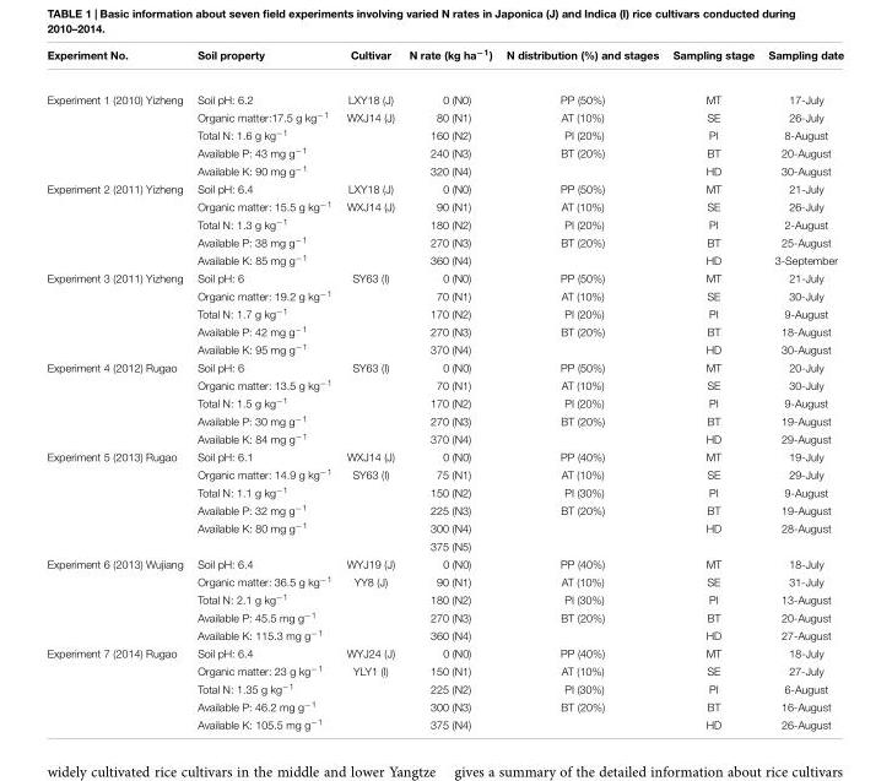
<table><thead><tr><td>Experiment No.</td><td>Soil property</td><td>Cultivar</td><td>N rate (kg ha<sup>−1</sup>)</td><td>N distribution (%) and stages</td><td>Sampling stage</td><td>Sampling date</td></tr></thead><tbody><tr><td rowspan="5">Experiment 1 (2010) Yizheng</td><td>Soil pH: 6.2</td><td>LXY18 (J)</td><td>0 (N0)</td><td>PP (50%)</td><td>MT</td><td>17-July</td></tr><tr><td>Organic matter:17.5 g kg<sup>−1</sup></td><td>WXJ14 (J)</td><td>80 (N1)</td><td>AT (10%)</td><td>SE</td><td>26-July</td></tr><tr><td>Total N: 1.6 g kg<sup>−1</sup></td><td></td><td>160 (N2)</td><td>PI (20%)</td><td>PI</td><td>8-August</td></tr><tr><td>Available P: 43 mg g<sup>−1</sup></td><td></td><td>240 (N3)</td><td>BT (20%)</td><td>BT</td><td>20-August</td></tr><tr><td>Available K: 90 mg g<sup>−1</sup></td><td></td><td>320 (N4)</td><td></td><td>HD</td><td>30-August</td></tr><tr><td rowspan="5">Experiment 2 (2011) Yizheng</td><td>Soil pH: 6.4</td><td>LXY18 (J)</td><td>0 (N0)</td><td>PP (50%)</td><td>MT</td><td>21-July</td></tr><tr><td>Organic matter: 15.5 g kg<sup>−1</sup></td><td>WXJ14 (J)</td><td>90 (N1)</td><td>AT (10%)</td><td>SE</td><td>26-July</td></tr><tr><td>Total N: 1.3 g kg<sup>−1</sup></td><td></td><td>180 (N2)</td><td>PI (20%)</td><td>PI</td><td>2-August</td></tr><tr><td>Available P: 38 mg g<sup>−1</sup></td><td></td><td>270 (N3)</td><td>BT (20%)</td><td>BT</td><td>25-August</td></tr><tr><td>Available K: 85 mg g<sup>−1</sup></td><td></td><td>360 (N4)</td><td></td><td>HD</td><td>3-September</td></tr><tr><td rowspan="5">Experiment 3 (2011) Yizheng</td><td>Soil pH: 6</td><td>SY63 (I)</td><td>0 (N0)</td><td>PP (50%)</td><td>MT</td><td>21-July</td></tr><tr><td>Organic matter: 19.2 g kg<sup>−1</sup></td><td></td><td>70 (N1)</td><td>AT (10%)</td><td>SE</td><td>30-July</td></tr><tr><td>Total N: 1.7 g kg<sup>−1</sup></td><td></td><td>170 (N2)</td><td>PI (20%)</td><td>PI</td><td>9-August</td></tr><tr><td>Available P: 42 mg g<sup>−1</sup></td><td></td><td>270 (N3)</td><td>BT (20%)</td><td>BT</td><td>18-August</td></tr><tr><td>Available K: 95 mg g<sup>−1</sup></td><td></td><td>370 (N4)</td><td></td><td>HD</td><td>30-August</td></tr><tr><td rowspan="5">Experiment 4 (2012) Rugao</td><td>Soil pH: 6</td><td>SY63 (I)</td><td>0 (N0)</td><td>PP (50%)</td><td>MT</td><td>20-July</td></tr><tr><td>Organic matter: 13.5 g kg<sup>−1</sup></td><td></td><td>70 (N1)</td><td>AT (10%)</td><td>SE</td><td>30-July</td></tr><tr><td>Total N: 1.5 g kg<sup>−1</sup></td><td></td><td>170 (N2)</td><td>PI (20%)</td><td>PI</td><td>9-August</td></tr><tr><td>Available P: 30 mg g<sup>−1</sup></td><td></td><td>270 (N3)</td><td>BT (20%)</td><td>BT</td><td>19-August</td></tr><tr><td>Available K: 84 mg g<sup>−1</sup></td><td></td><td>370 (N4)</td><td></td><td>HD</td><td>29-August</td></tr><tr><td rowspan="6">Experiment 5 (2013) Rugao</td><td>Soil pH: 6.1</td><td>WXJ14 (J)</td><td>0 (N0)</td><td>PP (40%)</td><td>MT</td><td>19-July</td></tr><tr><td>Organic matter: 14.9 g kg<sup>−1</sup></td><td>SY63 (I)</td><td>75 (N1)</td><td>AT (10%)</td><td>SE</td><td>29-July</td></tr><tr><td>Total N: 1.1 g kg<sup>−1</sup></td><td></td><td>150 (N2)</td><td>PI (30%)</td><td>PI</td><td>9-August</td></tr><tr><td>Available P: 32 mg g<sup>−1</sup></td><td></td><td>225 (N3)</td><td>BT (20%)</td><td>BT</td><td>19-August</td></tr><tr><td>Available K: 80 mg g<sup>−1</sup></td><td></td><td>300 (N4)</td><td></td><td>HD</td><td>28-August</td></tr><tr><td></td><td></td><td>375 (N5)</td><td></td><td></td><td></td></tr><tr><td rowspan="5">Experiment 6 (2013) Wujiang</td><td>Soil pH: 6.4</td><td>WYJ19 (J)</td><td>0 (N0)</td><td>PP (40%)</td><td>MT</td><td>18-July</td></tr><tr><td>Organic matter: 36.5 g kg<sup>−1</sup></td><td>YY8 (J)</td><td>90 (N1)</td><td>AT (10%)</td><td>SE</td><td>31-July</td></tr><tr><td>Total N: 2.1 g kg<sup>−1</sup></td><td></td><td>180 (N2)</td><td>PI (30%)</td><td>PI</td><td>13-August</td></tr><tr><td>Available P: 45.5 mg g<sup>−1</sup></td><td></td><td>270 (N3)</td><td>BT (20%)</td><td>BT</td><td>20-August</td></tr><tr><td>Available K: 115.3 mg g<sup>−1</sup></td><td></td><td>360 (N4)</td><td></td><td>HD</td><td>27-August</td></tr><tr><td rowspan="5">Experiment 7 (2014) Rugao</td><td>Soil pH: 6.4</td><td>WYJ24 (J)</td><td>0 (N0)</td><td>PP (40%)</td><td>MT</td><td>18-July</td></tr><tr><td>Organic matter: 23 g kg<sup>−1</sup></td><td>YLY1 (I)</td><td>150 (N1)</td><td>AT (10%)</td><td>SE</td><td>27-July</td></tr><tr><td>Total N: 1.35 g kg<sup>−1</sup></td><td></td><td>225 (N2)</td><td>PI (30%)</td><td>PI</td><td>6-August</td></tr><tr><td>Available P: 46.2 mg g<sup>−1</sup></td><td></td><td>300 (N3)</td><td>BT (20%)</td><td>BT</td><td>16-August</td></tr><tr><td>Available K: 105.5 mg g<sup>−1</sup></td><td></td><td>375 (N4)</td><td></td><td>HD</td><td>26-August</td></tr></tbody></table>